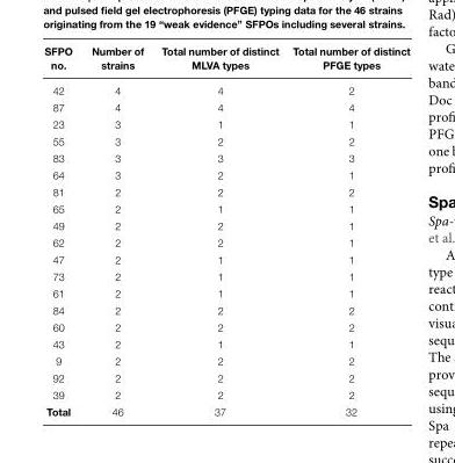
<table><thead><tr><td>SFPO no.</td><td>Number of strains</td><td>Total number of distinct MLVA types</td><td>Total number of distinct PFGE types</td></tr></thead><tbody><tr><td>42</td><td>4</td><td>4</td><td>2</td></tr><tr><td>87</td><td>4</td><td>4</td><td>4</td></tr><tr><td>23</td><td>3</td><td>1</td><td>1</td></tr><tr><td>55</td><td>3</td><td>2</td><td>2</td></tr><tr><td>83</td><td>3</td><td>3</td><td>3</td></tr><tr><td>64</td><td>3</td><td>2</td><td>1</td></tr><tr><td>81</td><td>2</td><td>2</td><td>2</td></tr><tr><td>65</td><td>2</td><td>1</td><td>1</td></tr><tr><td>49</td><td>2</td><td>2</td><td>1</td></tr><tr><td>62</td><td>2</td><td>2</td><td>1</td></tr><tr><td>47</td><td>2</td><td>1</td><td>1</td></tr><tr><td>73</td><td>2</td><td>1</td><td>1</td></tr><tr><td>61</td><td>2</td><td>1</td><td>1</td></tr><tr><td>84</td><td>2</td><td>2</td><td>2</td></tr><tr><td>60</td><td>2</td><td>2</td><td>2</td></tr><tr><td>43</td><td>2</td><td>1</td><td>1</td></tr><tr><td>9</td><td>2</td><td>2</td><td>2</td></tr><tr><td>92</td><td>2</td><td>2</td><td>2</td></tr><tr><td>39</td><td>2</td><td>2</td><td>2</td></tr><tr><td>Total</td><td>46</td><td>37</td><td>32</td></tr></tbody></table>